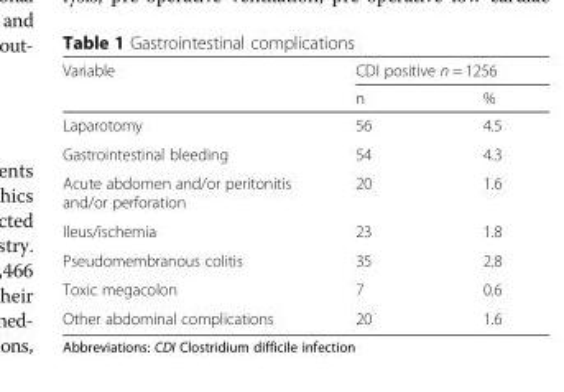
<table><thead><tr><td rowspan="2">Variable</td><td colspan="2">CDI positive n = 1256</td></tr><tr><td>n</td><td>%</td></tr></thead><tbody><tr><td>Laparotomy</td><td>56</td><td>4.5</td></tr><tr><td>Gastrointestinal bleeding</td><td>54</td><td>4.3</td></tr><tr><td>Acute abdomen and/or peritonitis and/or perforation</td><td>20</td><td>1.6</td></tr><tr><td>Ileus/ischemia</td><td>23</td><td>1.8</td></tr><tr><td>Pseudomembranous colitis</td><td>35</td><td>2.8</td></tr><tr><td>Toxic megacolon</td><td>7</td><td>0.6</td></tr><tr><td>Other abdominal complications</td><td>20</td><td>1.6</td></tr></tbody></table>